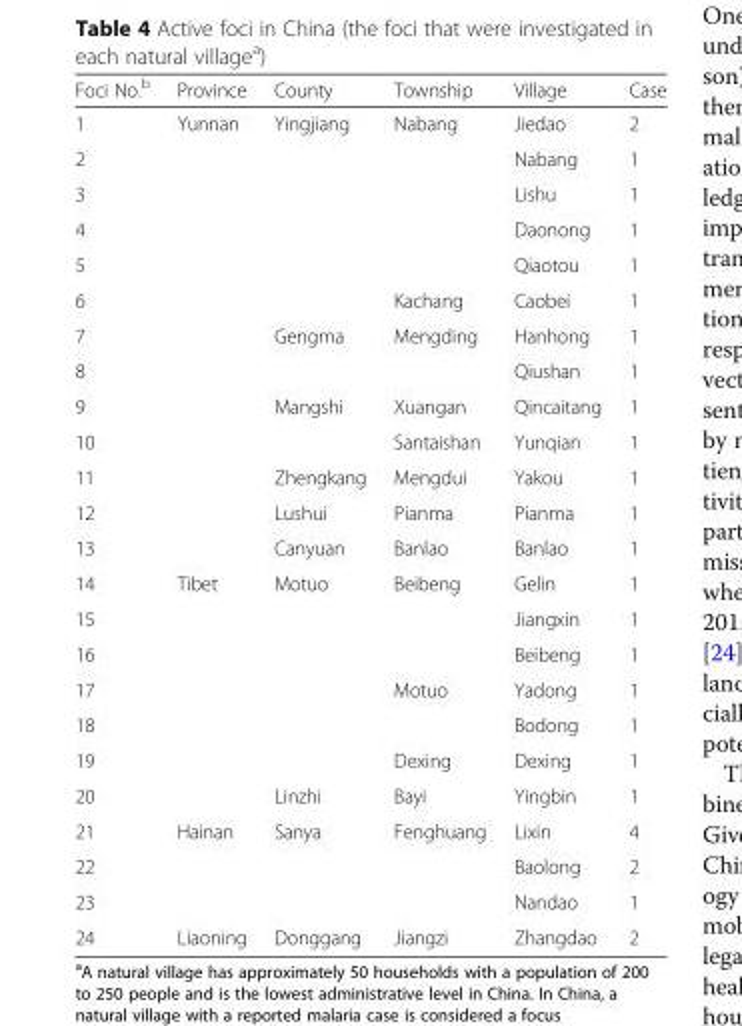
<table><thead><tr><td>Foci No.<sup>b</sup></td><td>Province</td><td>County</td><td>Township</td><td>Village</td><td>Case</td></tr></thead><tbody><tr><td>1</td><td rowspan="13">Yunnan</td><td rowspan="6">Yingjiang</td><td>Nabang</td><td>Jiedao</td><td>2</td></tr><tr><td>2</td><td></td><td>Nabang</td><td>1</td></tr><tr><td>3</td><td></td><td>Lishu</td><td>1</td></tr><tr><td>4</td><td></td><td>Daonong</td><td>1</td></tr><tr><td>5</td><td></td><td>Qiaotou</td><td>1</td></tr><tr><td>6</td><td>Kachang</td><td>Caobei</td><td>1</td></tr><tr><td>7</td><td rowspan="2">Gengma</td><td>Mengding</td><td>Hanhong</td><td>1</td></tr><tr><td>8</td><td></td><td>Qiushan</td><td>1</td></tr><tr><td>9</td><td rowspan="2">Mangshi</td><td>Xuangan</td><td>Qincaitang</td><td>1</td></tr><tr><td>10</td><td>Santaishan</td><td>Yunqian</td><td>1</td></tr><tr><td>11</td><td>Zhengkang</td><td>Mengdui</td><td>Yakou</td><td>1</td></tr><tr><td>12</td><td>Lushui</td><td>Pianma</td><td>Pianma</td><td>1</td></tr><tr><td>13</td><td>Canyuan</td><td>Banlao</td><td>Banlao</td><td>1</td></tr><tr><td>14</td><td rowspan="7">Tibet</td><td rowspan="6">Motuo</td><td rowspan="3">Beibeng</td><td>Gelin</td><td>1</td></tr><tr><td>15</td><td>Jiangxin</td><td>1</td></tr><tr><td>16</td><td>Beibeng</td><td>1</td></tr><tr><td>17</td><td rowspan="2">Motuo</td><td>Yadong</td><td>1</td></tr><tr><td>18</td><td>Bodong</td><td>1</td></tr><tr><td>19</td><td>Dexing</td><td>Dexing</td><td>1</td></tr><tr><td>20</td><td>Linzhi</td><td>Bayi</td><td>Yingbin</td><td>1</td></tr><tr><td>21</td><td rowspan="3">Hainan</td><td rowspan="3">Sanya</td><td rowspan="3">Fenghuang</td><td>Lixin</td><td>4</td></tr><tr><td>22</td><td>Baolong</td><td>2</td></tr><tr><td>23</td><td>Nandao</td><td>1</td></tr><tr><td>24</td><td>Liaoning</td><td>Donggang</td><td>Jiangzi</td><td>Zhangdao</td><td>2</td></tr></tbody></table>